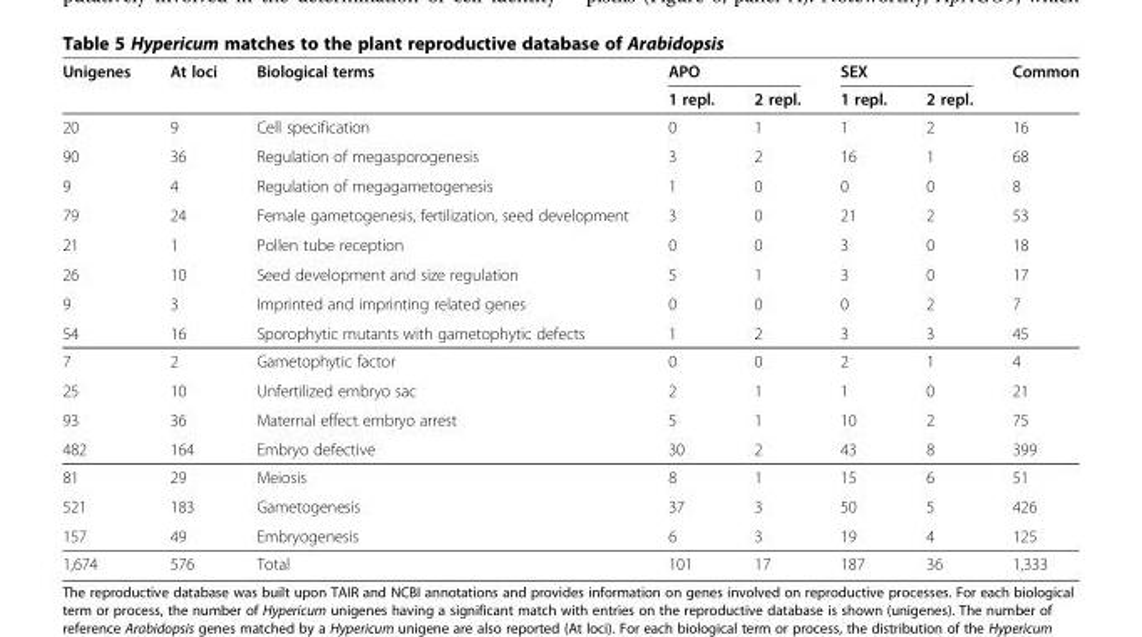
<table><thead><tr><td rowspan="2">Unigenes</td><td rowspan="2">At loci</td><td rowspan="2">Biological terms</td><td colspan="2">APO</td><td colspan="2">SEX</td><td rowspan="2">Common</td></tr><tr><td>1 repl.</td><td>2 repl.</td><td>1 repl.</td><td>2 repl.</td></tr></thead><tbody><tr><td>20</td><td>9</td><td>Cell specification</td><td>0</td><td>1</td><td>1</td><td>2</td><td>16</td></tr><tr><td>90</td><td>36</td><td>Regulation of megasporogenesis</td><td>3</td><td>2</td><td>16</td><td>1</td><td>68</td></tr><tr><td>9</td><td>4</td><td>Regulation of megagametogenesis</td><td>1</td><td>0</td><td>0</td><td>0</td><td>8</td></tr><tr><td>79</td><td>24</td><td>Female gametogenesis, fertilization, seed development</td><td>3</td><td>0</td><td>21</td><td>2</td><td>53</td></tr><tr><td>21</td><td>1</td><td>Pollen tube reception</td><td>0</td><td>0</td><td>3</td><td>0</td><td>18</td></tr><tr><td>26</td><td>10</td><td>Seed development and size regulation</td><td>5</td><td>1</td><td>3</td><td>0</td><td>17</td></tr><tr><td>9</td><td>3</td><td>Imprinted and imprinting related genes</td><td>0</td><td>0</td><td>0</td><td>2</td><td>7</td></tr><tr><td>54</td><td>16</td><td>Sporophytic mutants with gametophytic defects</td><td>1</td><td>2</td><td>3</td><td>3</td><td>45</td></tr><tr><td>7</td><td>2</td><td>Gametophytic factor</td><td>0</td><td>0</td><td>2</td><td>1</td><td>4</td></tr><tr><td>25</td><td>10</td><td>Unfertilized embryo sac</td><td>2</td><td>1</td><td>1</td><td>0</td><td>21</td></tr><tr><td>93</td><td>36</td><td>Maternal effect embryo arrest</td><td>5</td><td>1</td><td>10</td><td>2</td><td>75</td></tr><tr><td>482</td><td>164</td><td>Embryo defective</td><td>30</td><td>2</td><td>43</td><td>8</td><td>399</td></tr><tr><td>81</td><td>29</td><td>Meiosis</td><td>8</td><td>1</td><td>15</td><td>6</td><td>51</td></tr><tr><td>521</td><td>183</td><td>Gametogenesis</td><td>37</td><td>3</td><td>50</td><td>5</td><td>426</td></tr><tr><td>157</td><td>49</td><td>Embryogenesis</td><td>6</td><td>3</td><td>19</td><td>4</td><td>125</td></tr><tr><td>1,674</td><td>576</td><td>Total</td><td>101</td><td>17</td><td>187</td><td>36</td><td>1,333</td></tr></tbody></table>